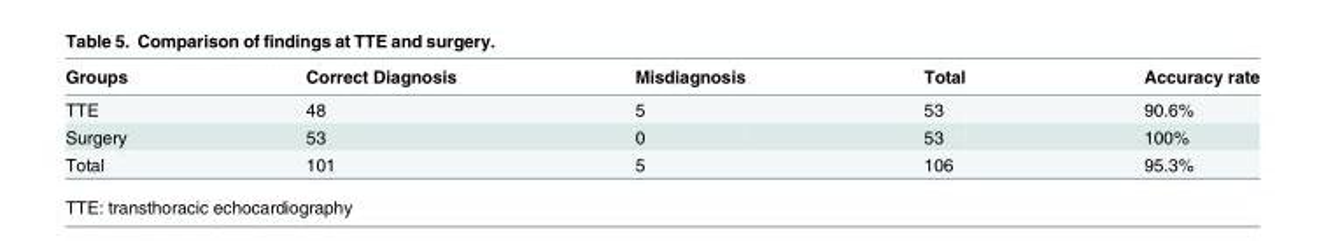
<table><thead><tr><td>Groups</td><td>Correct Diagnosis</td><td>Misdiagnosis</td><td>Total</td><td>Accuracy rate</td></tr></thead><tbody><tr><td>TTE</td><td>48</td><td>5</td><td>53</td><td>90.6%</td></tr><tr><td>Surgery</td><td>53</td><td>0</td><td>53</td><td>100%</td></tr><tr><td>Total</td><td>101</td><td>5</td><td>106</td><td>95.3%</td></tr></tbody></table>